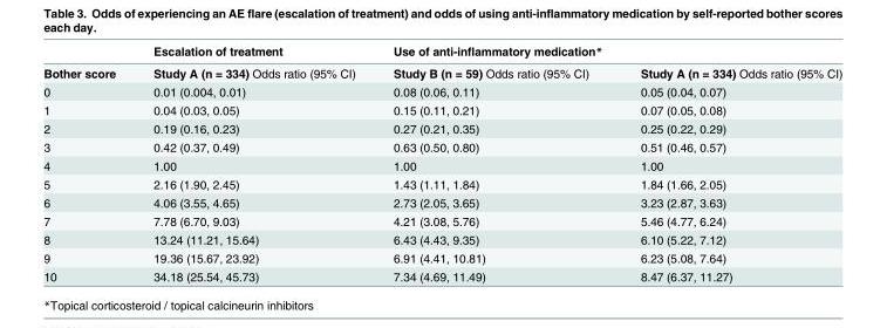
<table><thead><tr><td></td><td>Escalation of treatment</td><td>Use of anti-inflammatory medication*</td><td></td></tr></thead><tbody><tr><td>Bother score</td><td>Study A (n = 334) Odds ratio (95% CI)</td><td>Study B (n = 59) Odds ratio (95% CI)</td><td>Study A (n = 334) Odds ratio (95% CI)</td></tr><tr><td>0</td><td>0.01 (0.004, 0.01)</td><td>0.08 (0.06, 0.11)</td><td>0.05 (0.04, 0.07)</td></tr><tr><td>1</td><td>0.04 (0.03, 0.05)</td><td>0.15 (0.11, 0.21)</td><td>0.07 (0.05, 0.08)</td></tr><tr><td>2</td><td>0.19 (0.16, 0.23)</td><td>0.27 (0.21, 0.35)</td><td>0.25 (0.22, 0.29)</td></tr><tr><td>3</td><td>0.42 (0.37, 0.49)</td><td>0.63 (0.50, 0.80)</td><td>0.51 (0.46, 0.57)</td></tr><tr><td>4</td><td>1.00</td><td>1.00</td><td>1.00</td></tr><tr><td>5</td><td>2.16 (1.90, 2.45)</td><td>1.43 (1.11, 1.84)</td><td>1.84 (1.66, 2.05)</td></tr><tr><td>6</td><td>4.06 (3.55, 4.65)</td><td>2.73 (2.05, 3.65)</td><td>3.23 (2.87, 3.63)</td></tr><tr><td>7</td><td>7.78 (6.70, 9.03)</td><td>4.21 (3.08, 5.76)</td><td>5.46 (4.77, 6.24)</td></tr><tr><td>8</td><td>13.24 (11.21, 15.64)</td><td>6.43 (4.43, 9.35)</td><td>6.10 (5.22, 7.12)</td></tr><tr><td>9</td><td>19.36 (15.67, 23.92)</td><td>6.91 (4.41, 10.81)</td><td>6.23 (5.08, 7.64)</td></tr><tr><td>10</td><td>34.18 (25.54, 45.73)</td><td>7.34 (4.69, 11.49)</td><td>8.47 (6.37, 11.27)</td></tr></tbody></table>